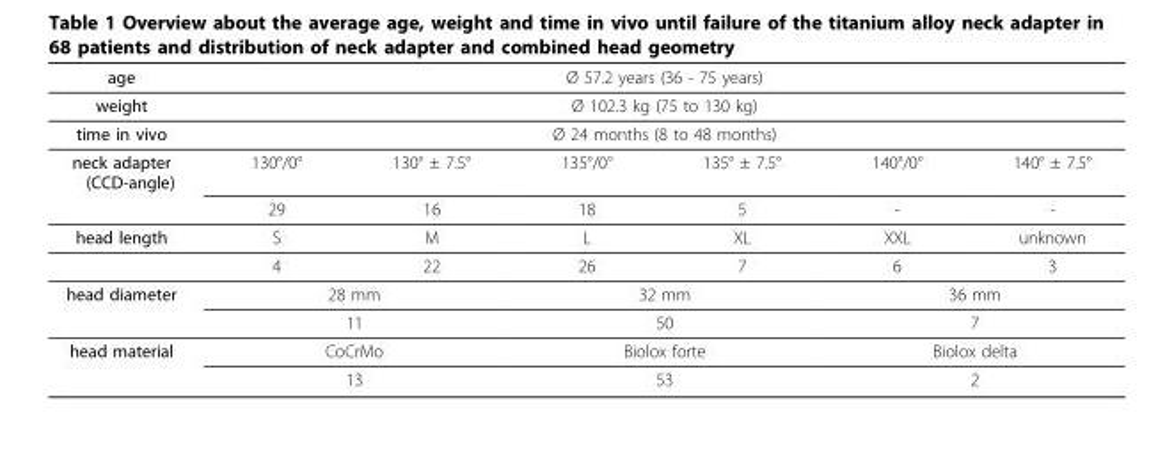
<table><thead><tr><td rowspan="4">age weight time in vivo neck adapter (CCD-angle)</td><td rowspan="3" colspan="6">Ø 57.2 years (36 - 75 years) Ø 102.3 kg (75 to 130 kg) Ø 24 months (8 to 48 months)</td></tr><tr></tr><tr></tr><tr><td>130°/0°</td><td>130° ± 7.5°</td><td>135°/0°</td><td>135° ± 7.5°</td><td>140°/0°</td><td>140° ± 7.5°</td></tr></thead><tbody><tr><td></td><td>29</td><td>16</td><td>18</td><td>5</td><td>-</td><td>-</td></tr><tr><td rowspan="2">head length</td><td>S</td><td>M</td><td>L</td><td>XL</td><td>XXL</td><td>unknown</td></tr><tr><td>4</td><td>22</td><td>26</td><td>7</td><td>6</td><td>3</td></tr><tr><td rowspan="2">head diameter</td><td colspan="2">28 mm</td><td colspan="2">32 mm</td><td colspan="2">36 mm</td></tr><tr><td colspan="2">11</td><td colspan="2">50</td><td colspan="2">7</td></tr><tr><td rowspan="2">head material</td><td colspan="2">CoCrMo</td><td colspan="2">Biolox forte</td><td colspan="2">Biolox delta</td></tr><tr><td colspan="2">13</td><td colspan="2">53</td><td colspan="2">2</td></tr></tbody></table>